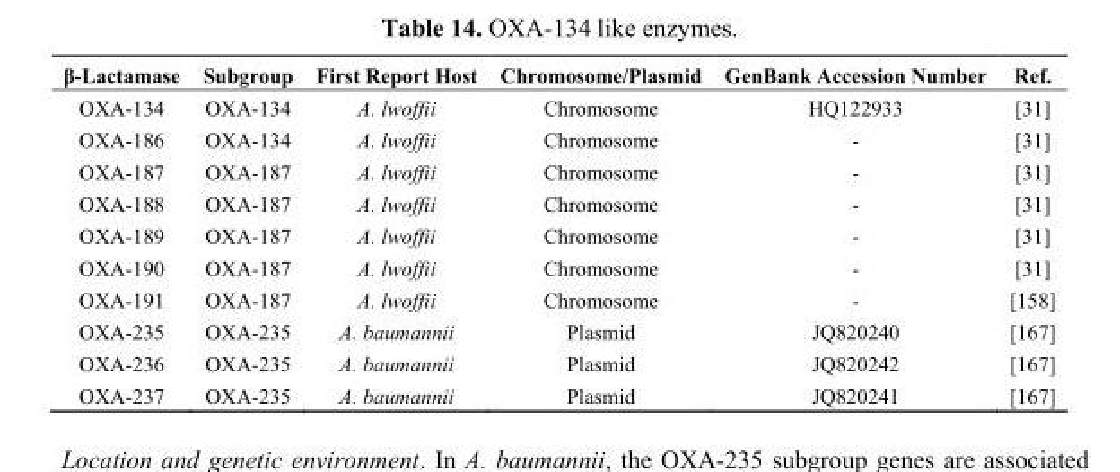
<table><thead><tr><td>β-Lactamase</td><td>Subgroup</td><td>First Report Host</td><td>Chromosome/Plasmid</td><td>GenBank Accession Number</td><td>Ref.</td></tr></thead><tbody><tr><td>OXA-134</td><td>OXA-134</td><td>A. lwoffii</td><td>Chromosome</td><td>HQ122933</td><td>[31]</td></tr><tr><td>OXA-186</td><td>OXA-134</td><td>A. lwoffii</td><td>Chromosome</td><td>-</td><td>[31]</td></tr><tr><td>OXA-187</td><td>OXA-187</td><td>A. lwoffii</td><td>Chromosome</td><td>-</td><td>[31]</td></tr><tr><td>OXA-188</td><td>OXA-187</td><td>A. lwoffii</td><td>Chromosome</td><td>-</td><td>[31]</td></tr><tr><td>OXA-189</td><td>OXA-187</td><td>A. lwoffii</td><td>Chromosome</td><td>-</td><td>[31]</td></tr><tr><td>OXA-190</td><td>OXA-187</td><td>A. lwoffii</td><td>Chromosome</td><td>-</td><td>[31]</td></tr><tr><td>OXA-191</td><td>OXA-187</td><td>A. lwoffii</td><td>Chromosome</td><td>-</td><td>[158]</td></tr><tr><td>OXA-235</td><td>OXA-235</td><td>A. baumannii</td><td>Plasmid</td><td>JQ820240</td><td>[167]</td></tr><tr><td>OXA-236</td><td>OXA-235</td><td>A. baumannii</td><td>Plasmid</td><td>JQ820242</td><td>[167]</td></tr><tr><td>OXA-237</td><td>OXA-235</td><td>A. baumannii</td><td>Plasmid</td><td>JQ820241</td><td>[167]</td></tr></tbody></table>